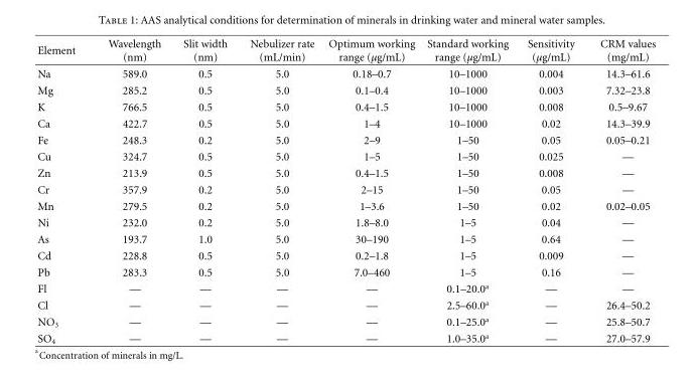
<table><thead><tr><td>Element</td><td>Wavelength (nm)</td><td>Slit width (nm)</td><td>Nebulizer rate (mL/min)</td><td>Optimum working range (µg/mL)</td><td>Standard working range (µg/mL)</td><td>Sensitivity (µg/mL)</td><td>CRM values (mg/mL)</td></tr></thead><tbody><tr><td>Na</td><td>589.0</td><td>0.5</td><td>5.0</td><td>0.18–0.7</td><td>10–1000</td><td>0.004</td><td>14.3–61.6</td></tr><tr><td>Mg</td><td>285.2</td><td>0.5</td><td>5.0</td><td>0.1–0.4</td><td>10–1000</td><td>0.003</td><td>7.32–23.8</td></tr><tr><td>K</td><td>766.5</td><td>0.5</td><td>5.0</td><td>0.4–1.5</td><td>10–1000</td><td>0.008</td><td>0.5–9.67</td></tr><tr><td>Ca</td><td>422.7</td><td>0.5</td><td>5.0</td><td>1–4</td><td>10–1000</td><td>0.02</td><td>14.3–39.9</td></tr><tr><td>Fe</td><td>248.3</td><td>0.2</td><td>5.0</td><td>2–9</td><td>1–50</td><td>0.05</td><td>0.05–0.21</td></tr><tr><td>Cu</td><td>324.7</td><td>0.5</td><td>5.0</td><td>1–5</td><td>1–50</td><td>0.025</td><td>—</td></tr><tr><td>Zn</td><td>213.9</td><td>0.5</td><td>5.0</td><td>0.4–1.5</td><td>1–50</td><td>0.008</td><td>—</td></tr><tr><td>Cr</td><td>357.9</td><td>0.2</td><td>5.0</td><td>2–15</td><td>1–50</td><td>0.05</td><td>—</td></tr><tr><td>Mn</td><td>279.5</td><td>0.2</td><td>5.0</td><td>1–3.6</td><td>1–50</td><td>0.02</td><td>0.02–0.05</td></tr><tr><td>Ni</td><td>232.0</td><td>0.2</td><td>5.0</td><td>1.8–8.0</td><td>1–5</td><td>0.04</td><td>—</td></tr><tr><td>As</td><td>193.7</td><td>1.0</td><td>5.0</td><td>30–190</td><td>1–5</td><td>0.64</td><td>—</td></tr><tr><td>Cd</td><td>228.8</td><td>0.5</td><td>5.0</td><td>0.2–1.8</td><td>1–5</td><td>0.009</td><td>—</td></tr><tr><td>Pb</td><td>283.3</td><td>0.5</td><td>5.0</td><td>7.0–460</td><td>1–5</td><td>0.16</td><td>—</td></tr><tr><td>Fl</td><td>—</td><td>—</td><td>—</td><td>—</td><td>0.1–20.0<sup>a</sup></td><td>—</td><td>—</td></tr><tr><td>Cl</td><td>—</td><td>—</td><td>—</td><td>—</td><td>2.5–60.0<sup>a</sup></td><td>—</td><td>26.4–50.2</td></tr><tr><td>NO<sub>3</sub></td><td>—</td><td>—</td><td>—</td><td>—</td><td>0.1–25.0<sup>a</sup></td><td>—</td><td>25.8–50.7</td></tr><tr><td>SO<sub>4</sub></td><td>—</td><td>—</td><td>—</td><td>—</td><td>1.0–35.0<sup>a</sup></td><td>—</td><td>27.0–57.9</td></tr></tbody></table>